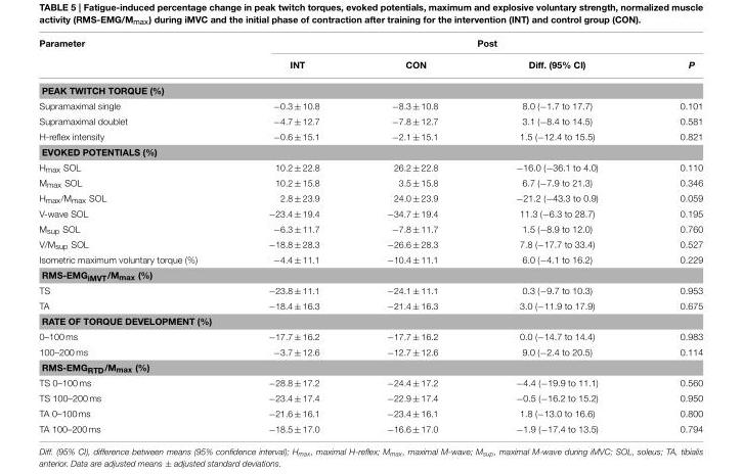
<table><thead><tr><td rowspan="2">Parameter</td><td colspan="4">Post</td></tr><tr><td>INT</td><td>CON</td><td>Diff. (95% CI)</td><td>P</td></tr></thead><tbody><tr><td colspan="5">PEAK TWITCH TORQUE (%)</td></tr><tr><td>Supramaximal single</td><td>−0.3 ± 10.8</td><td>−8.3 ± 10.8</td><td>8.0 (−1.7 to 17.7)</td><td>0.101</td></tr><tr><td>Supramaximal doublet</td><td>−4.7 ± 12.7</td><td>−7.8 ± 12.7</td><td>3.1 (−8.4 to 14.5)</td><td>0.581</td></tr><tr><td>H-reflex intensity</td><td>−0.6 ± 15.1</td><td>−2.1 ± 15.1</td><td>1.5 (−12.4 to 15.5)</td><td>0.821</td></tr><tr><td colspan="5">EVOKED POTENTIALS (%)</td></tr><tr><td>H<sub>max</sub> SOL</td><td>10.2 ± 22.8</td><td>26.2 ± 22.8</td><td>−16.0 (−36.1 to 4.0)</td><td>0.110</td></tr><tr><td>M<sub>max</sub> SOL</td><td>10.2 ± 15.8</td><td>3.5 ± 15.8</td><td>6.7 (−7.9 to 21.3)</td><td>0.346</td></tr><tr><td>H<sub>max</sub>/M<sub>max</sub> SOL</td><td>2.8 ± 23.9</td><td>24.0 ± 23.9</td><td>−21.2 (−43.3 to 0.9)</td><td>0.059</td></tr><tr><td>V-wave SOL</td><td>−23.4 ± 19.4</td><td>−34.7 ± 19.4</td><td>11.3 (−6.3 to 28.7)</td><td>0.195</td></tr><tr><td>M<sub>sup</sub> SOL</td><td>−6.3 ± 11.7</td><td>−7.8 ± 11.7</td><td>1.5 (−8.9 to 12.0)</td><td>0.760</td></tr><tr><td>V/M<sub>sup</sub> SOL</td><td>−18.8 ± 28.3</td><td>−26.6 ± 28.3</td><td>7.8 (−17.7 to 33.4)</td><td>0.527</td></tr><tr><td>Isometric maximum voluntary torque (%)</td><td>−4.4 ± 11.1</td><td>−10.4 ± 11.1</td><td>6.0 (−4.1 to 16.2)</td><td>0.229</td></tr><tr><td colspan="5">RMS-EMG<sub>iMVT</sub>/M<sub>max</sub> (%)</td></tr><tr><td>TS</td><td>−23.8 ± 11.1</td><td>−24.1 ± 11.1</td><td>0.3 (−9.7 to 10.3)</td><td>0.953</td></tr><tr><td>TA</td><td>−18.4 ± 16.3</td><td>−21.4 ± 16.3</td><td>3.0 (−11.9 to 17.9)</td><td>0.675</td></tr><tr><td colspan="5">RATE OF TORQUE DEVELOPMENT (%)</td></tr><tr><td>0–100 ms</td><td>−17.7 ± 16.2</td><td>−17.7 ± 16.2</td><td>0.0 (−14.7 to 14.4)</td><td>0.983</td></tr><tr><td>100–200 ms</td><td>−3.7 ± 12.6</td><td>−12.7 ± 12.6</td><td>9.0 (−2.4 to 20.5)</td><td>0.114</td></tr><tr><td colspan="5">RMS-EMG<sub>RTD</sub>/M<sub>max</sub> (%)</td></tr><tr><td>TS 0–100 ms</td><td>−28.8 ± 17.2</td><td>−24.4 ± 17.2</td><td>−4.4 (−19.9 to 11.1)</td><td>0.560</td></tr><tr><td>TS 100–200 ms</td><td>−23.4 ± 17.4</td><td>−22.9 ± 17.4</td><td>−0.5 (−16.2 to 15.2)</td><td>0.950</td></tr><tr><td>TA 0–100 ms</td><td>−21.6 ± 16.1</td><td>−23.4 ± 16.1</td><td>1.8 (−13.0 to 16.6)</td><td>0.800</td></tr><tr><td>TA 100–200 ms</td><td>−18.5 ± 17.0</td><td>−16.6 ± 17.0</td><td>−1.9 (−17.4 to 13.5)</td><td>0.794</td></tr></tbody></table>